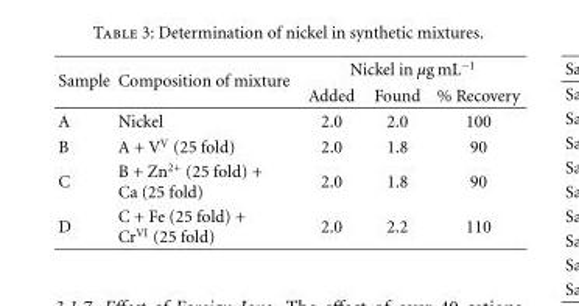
<table><thead><tr><td rowspan="2">Sample</td><td rowspan="2">Composition of mixture</td><td colspan="3">Nickel in µg mL<sup>−1</sup></td></tr><tr><td>Added</td><td>Found</td><td>% Recovery</td></tr></thead><tbody><tr><td>A</td><td>Nickel</td><td>2.0</td><td>2.0</td><td>100</td></tr><tr><td>B</td><td>A + V<sup>V</sup> (25 fold)</td><td>2.0</td><td>1.8</td><td>90</td></tr><tr><td>C</td><td>B + Zn<sup>2+</sup> (25 fold) + Ca (25 fold)</td><td>2.0</td><td>1.8</td><td>90</td></tr><tr><td>D</td><td>C + Fe (25 fold) + Cr<sup>VI</sup> (25 fold)</td><td>2.0</td><td>2.2</td><td>110</td></tr></tbody></table>